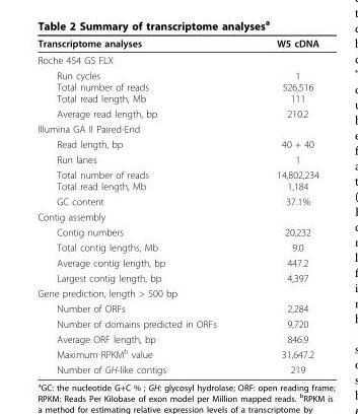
<table><thead><tr><td>Transcriptome analyses</td><td>W5 cDNA</td></tr></thead><tbody><tr><td colspan="2">Roche 454 GS FLX</td></tr><tr><td>Run cycles Total number of reads Total read length, Mb</td><td>1 526,516 111</td></tr><tr><td>Average read length, bp</td><td>210.2</td></tr><tr><td colspan="2">Illumina GA II Paired-End</td></tr><tr><td>Read length, bp</td><td>40 + 40</td></tr><tr><td>Run lanes</td><td>1</td></tr><tr><td>Total number of reads Total read length, Mb</td><td>14,802,234 1,184</td></tr><tr><td>GC content</td><td>37.1%</td></tr><tr><td colspan="2">Contig assembly</td></tr><tr><td>Contig numbers</td><td>20,232</td></tr><tr><td>Total contig lengths, Mb</td><td>9.0</td></tr><tr><td>Average contig length, bp</td><td>447.2</td></tr><tr><td>Largest contig length, bp</td><td>4,397</td></tr><tr><td colspan="2">Gene prediction, length &gt; 500 bp</td></tr><tr><td>Number of ORFs</td><td>2,284</td></tr><tr><td>Number of domains predicted in ORFs</td><td>9,720</td></tr><tr><td>Average ORF length, bp</td><td>846.9</td></tr><tr><td>Maximum RPKM<sup>b</sup> value</td><td>31,647.2</td></tr><tr><td>Number of GH-like contigs</td><td>219</td></tr></tbody></table>